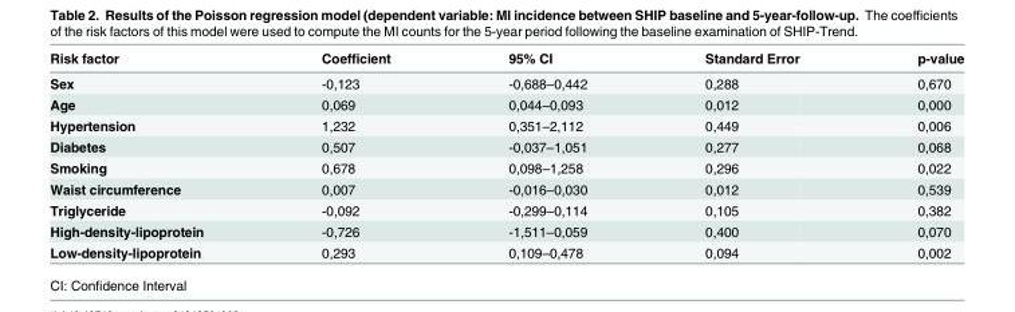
<table><thead><tr><td>Risk factor</td><td>Coefficient</td><td>95% CI</td><td>Standard Error</td><td>p-value</td></tr></thead><tbody><tr><td>Sex</td><td>-0,123</td><td>-0,688–0,442</td><td>0,288</td><td>0,670</td></tr><tr><td>Age</td><td>0,069</td><td>0,044–0,093</td><td>0,012</td><td>0,000</td></tr><tr><td>Hypertension</td><td>1,232</td><td>0,351–2,112</td><td>0,449</td><td>0,006</td></tr><tr><td>Diabetes</td><td>0,507</td><td>-0,037–1,051</td><td>0,277</td><td>0,068</td></tr><tr><td>Smoking</td><td>0,678</td><td>0,098–1,258</td><td>0,296</td><td>0,022</td></tr><tr><td>Waist circumference</td><td>0,007</td><td>-0,016–0,030</td><td>0,012</td><td>0,539</td></tr><tr><td>Triglyceride</td><td>-0,092</td><td>-0,299–0,114</td><td>0,105</td><td>0,382</td></tr><tr><td>High-density-lipoprotein</td><td>-0,726</td><td>-1,511–0,059</td><td>0,400</td><td>0,070</td></tr><tr><td>Low-density-lipoprotein</td><td>0,293</td><td>0,109–0,478</td><td>0,094</td><td>0,002</td></tr></tbody></table>